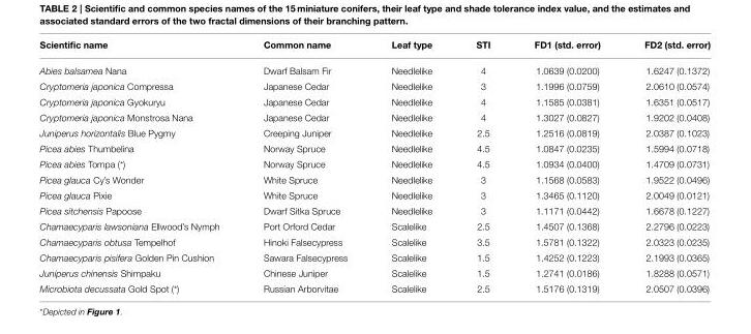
<table><thead><tr><td>Scientific name</td><td>Common name</td><td>Leaf type</td><td>STI</td><td>FD1 (std. error)</td><td>FD2 (std. error)</td></tr></thead><tbody><tr><td>Abies balsamea Nana</td><td>Dwarf Balsam Fir</td><td>Needlelike</td><td>4</td><td>1.0639 (0.0200)</td><td>1.6247 (0.1372)</td></tr><tr><td>Cryptomeria japonica Compressa</td><td>Japanese Cedar</td><td>Needlelike</td><td>3</td><td>1.1996 (0.0759)</td><td>2.0610 (0.0574)</td></tr><tr><td>Cryptomeria japonica Gyokuryu</td><td>Japanese Cedar</td><td>Needlelike</td><td>4</td><td>1.1585 (0.0381)</td><td>1.6351 (0.0517)</td></tr><tr><td>Cryptomeria japonica Monstrosa Nana</td><td>Japanese Cedar</td><td>Needlelike</td><td>4</td><td>1.3027 (0.0827)</td><td>1.9202 (0.0408)</td></tr><tr><td>Juniperus horizontalis Blue Pygmy</td><td>Creeping Juniper</td><td>Needlelike</td><td>2.5</td><td>1.2516 (0.0819)</td><td>2.0387 (0.1023)</td></tr><tr><td>Picea abies Thumbelina</td><td>Norway Spruce</td><td>Needlelike</td><td>4.5</td><td>1.0847 (0.0235)</td><td>1.5994 (0.0718)</td></tr><tr><td>Picea abies Tompa (*)</td><td>Norway Spruce</td><td>Needlelike</td><td>4.5</td><td>1.0934 (0.0400)</td><td>1.4709 (0.0731)</td></tr><tr><td>Picea glauca Cy’s Wonder</td><td>White Spruce</td><td>Needlelike</td><td>3</td><td>1.1568 (0.0583)</td><td>1.9522 (0.0496)</td></tr><tr><td>Picea glauca Pixie</td><td>White Spruce</td><td>Needlelike</td><td>3</td><td>1.3465 (0.1120)</td><td>2.0049 (0.0121)</td></tr><tr><td>Picea sitchensis Papoose</td><td>Dwarf Sitka Spruce</td><td>Needlelike</td><td>3</td><td>1.1171 (0.0442)</td><td>1.6678 (0.1227)</td></tr><tr><td>Chamaecyparis lawsoniana Ellwood’s Nymph</td><td>Port Orford Cedar</td><td>Scalelike</td><td>2.5</td><td>1.4507 (0.1368)</td><td>2.2796 (0.0223)</td></tr><tr><td>Chamaecyparis obtusa Tempelhof</td><td>Hinoki Falsecypress</td><td>Scalelike</td><td>3.5</td><td>1.5781 (0.1322)</td><td>2.0323 (0.0235)</td></tr><tr><td>Chamaecyparis pisifera Golden Pin Cushion</td><td>Sawara Falsecypress</td><td>Scalelike</td><td>1.5</td><td>1.4252 (0.1223)</td><td>2.1993 (0.0365)</td></tr><tr><td>Juniperus chinensis Shimpaku</td><td>Chinese Juniper</td><td>Scalelike</td><td>1.5</td><td>1.2741 (0.0186)</td><td>1.8288 (0.0571)</td></tr><tr><td>Microbiota decussata Gold Spot (*)</td><td>Russian Arborvitae</td><td>Scalelike</td><td>2.5</td><td>1.5176 (0.1319)</td><td>2.0507 (0.0396)</td></tr></tbody></table>